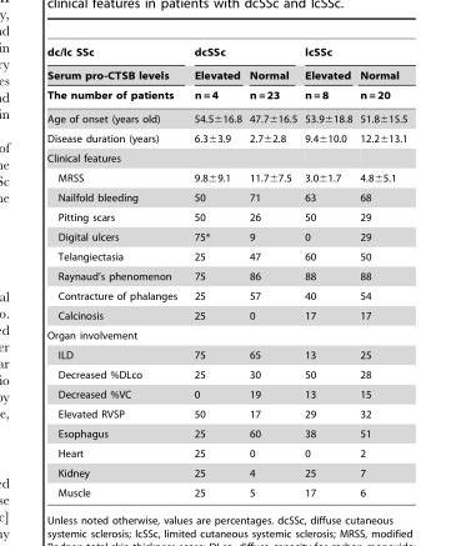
<table><thead><tr><td rowspan="3">dc/lc SSc Serum pro-CTSB levels The number of patients</td><td colspan="2">dcSSc</td><td colspan="2">lcSSc</td></tr><tr><td rowspan="2">Elevated n = 4</td><td rowspan="2">Normal n = 23</td><td rowspan="2">Elevated n = 8</td><td rowspan="2">Normal n = 20</td></tr><tr></tr></thead><tbody><tr><td>Age of onset (years old)</td><td>54.5±16.8</td><td>47.7±16.5</td><td>53.9±18.8</td><td>51.8±15.5</td></tr><tr><td>Disease duration (years)</td><td>6.3±3.9</td><td>2.7±2.8</td><td>9.4±10.0</td><td>12.2±13.1</td></tr><tr><td colspan="5">Clinical features</td></tr><tr><td>MRSS</td><td>9.8±9.1</td><td>11.7±7.5</td><td>3.0±1.7</td><td>4.8±5.1</td></tr><tr><td>Nailfold bleeding</td><td>50</td><td>71</td><td>63</td><td>68</td></tr><tr><td>Pitting scars</td><td>50</td><td>26</td><td>50</td><td>29</td></tr><tr><td>Digital ulcers</td><td>75*</td><td>9</td><td>0</td><td>29</td></tr><tr><td>Telangiectasia</td><td>25</td><td>47</td><td>60</td><td>50</td></tr><tr><td>Raynaud’s phenomenon</td><td>75</td><td>86</td><td>88</td><td>88</td></tr><tr><td>Contracture of phalanges</td><td>25</td><td>57</td><td>40</td><td>54</td></tr><tr><td>Calcinosis</td><td>25</td><td>0</td><td>17</td><td>17</td></tr><tr><td colspan="5">Organ involvement</td></tr><tr><td>ILD</td><td>75</td><td>65</td><td>13</td><td>25</td></tr><tr><td>Decreased %DLco</td><td>25</td><td>30</td><td>50</td><td>28</td></tr><tr><td>Decreased %VC</td><td>0</td><td>19</td><td>13</td><td>15</td></tr><tr><td>Elevated RVSP</td><td>50</td><td>17</td><td>29</td><td>32</td></tr><tr><td>Esophagus</td><td>25</td><td>60</td><td>38</td><td>51</td></tr><tr><td>Heart</td><td>25</td><td>0</td><td>0</td><td>2</td></tr><tr><td>Kidney</td><td>25</td><td>4</td><td>25</td><td>7</td></tr><tr><td>Muscle</td><td>25</td><td>5</td><td>17</td><td>6</td></tr></tbody></table>